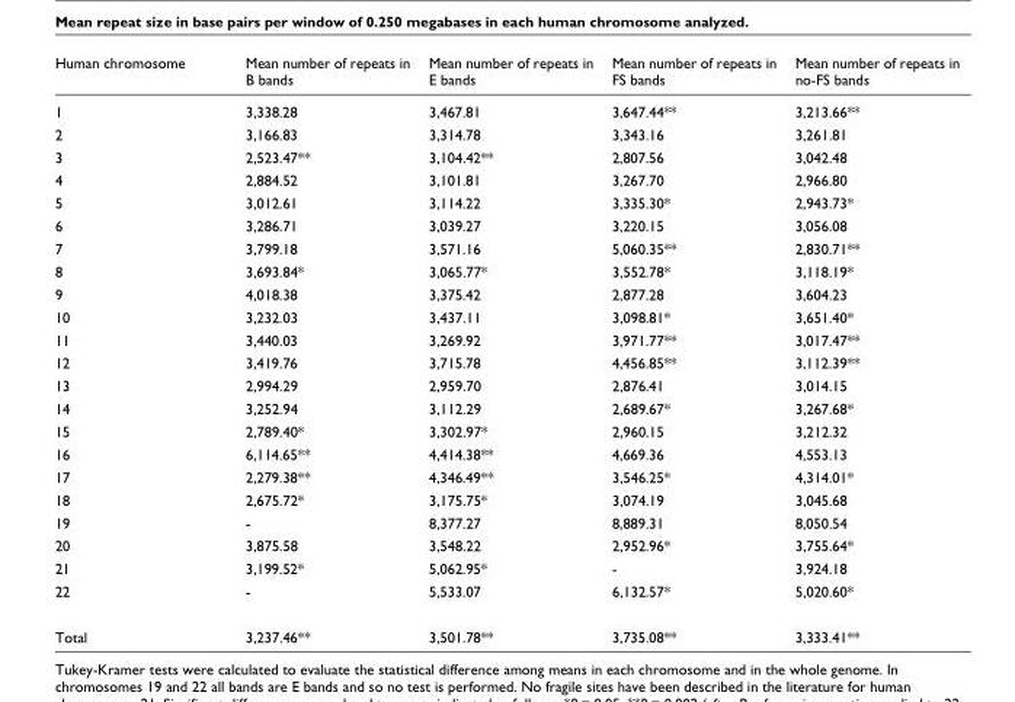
<table><thead><tr><td>Human chromosome</td><td>Mean number of repeats in B bands</td><td>Mean number of repeats in E bands</td><td>Mean number of repeats in FS bands</td><td>Mean number of repeats in no-FS bands</td></tr></thead><tbody><tr><td>1</td><td>3,338.28</td><td>3,467.81</td><td>3,647.44**</td><td>3,213.66**</td></tr><tr><td>2</td><td>3,166.83</td><td>3,314.78</td><td>3,343.16</td><td>3,261.81</td></tr><tr><td>3</td><td>2,523.47**</td><td>3,104.42**</td><td>2,807.56</td><td>3,042.48</td></tr><tr><td>4</td><td>2,884.52</td><td>3,101.81</td><td>3,267.70</td><td>2,966.80</td></tr><tr><td>5</td><td>3,012.61</td><td>3,114.22</td><td>3,335.30*</td><td>2,943.73*</td></tr><tr><td>6</td><td>3,286.71</td><td>3,039.27</td><td>3,220.15</td><td>3,056.08</td></tr><tr><td>7</td><td>3,799.18</td><td>3,571.16</td><td>5,060.35**</td><td>2,830.71**</td></tr><tr><td>8</td><td>3,693.84*</td><td>3,065.77*</td><td>3,552.78*</td><td>3,118.19*</td></tr><tr><td>9</td><td>4,018.38</td><td>3,375.42</td><td>2,877.28</td><td>3,604.23</td></tr><tr><td>10</td><td>3,232.03</td><td>3,437.11</td><td>3,098.81*</td><td>3,651.40*</td></tr><tr><td>11</td><td>3,440.03</td><td>3,269.92</td><td>3,971.77**</td><td>3,017.47**</td></tr><tr><td>12</td><td>3,419.76</td><td>3,715.78</td><td>4,456.85**</td><td>3,112.39**</td></tr><tr><td>13</td><td>2,994.29</td><td>2,959.70</td><td>2,876.41</td><td>3,014.15</td></tr><tr><td>14</td><td>3,252.94</td><td>3,112.29</td><td>2,689.67*</td><td>3,267.68*</td></tr><tr><td>15</td><td>2,789.40*</td><td>3,302.97*</td><td>2,960.15</td><td>3,212.32</td></tr><tr><td>16</td><td>6,114.65**</td><td>4,414.38**</td><td>4,669.36</td><td>4,553.13</td></tr><tr><td>17</td><td>2,279.38**</td><td>4,346.49**</td><td>3,546.25*</td><td>4,314.01*</td></tr><tr><td>18</td><td>2,675.72*</td><td>3,175.75*</td><td>3,074.19</td><td>3,045.68</td></tr><tr><td>19</td><td>-</td><td>8,377.27</td><td>8,889.31</td><td>8,050.54</td></tr><tr><td>20</td><td>3,875.58</td><td>3,548.22</td><td>2,952.96*</td><td>3,755.64*</td></tr><tr><td>21</td><td>3,199.52*</td><td>5,062.95*</td><td>-</td><td>3,924.18</td></tr><tr><td>22</td><td>-</td><td>5,533.07</td><td>6,132.57*</td><td>5,020.60*</td></tr><tr><td>Total</td><td>3,237.46**</td><td>3,501.78**</td><td>3,735.08**</td><td>3,333.41**</td></tr></tbody></table>